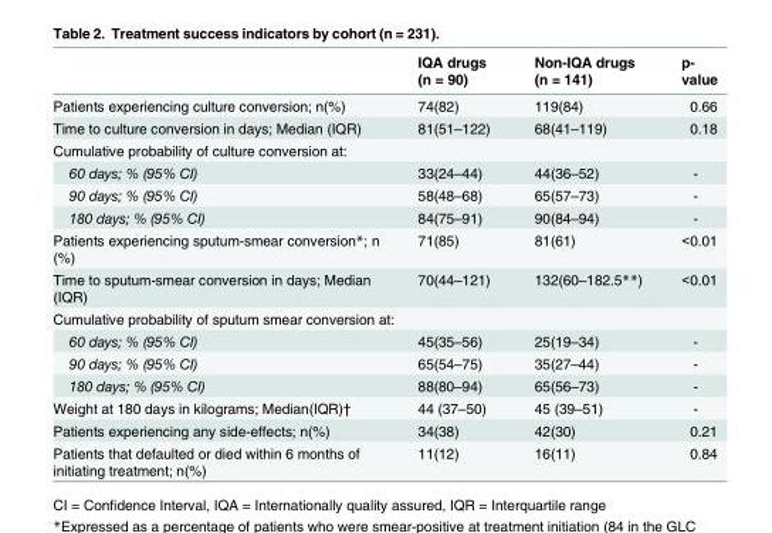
<table><thead><tr><td></td><td>IQA drugs (n = 90)</td><td>Non-IQA drugs (n = 141)</td><td>p- value</td></tr></thead><tbody><tr><td>Patients experiencing culture conversion; n(%)</td><td>74(82)</td><td>119(84)</td><td>0.66</td></tr><tr><td>Time to culture conversion in days; Median (IQR)</td><td>81(51–122)</td><td>68(41–119)</td><td>0.18</td></tr><tr><td colspan="4">Cumulative probability of culture conversion at:</td></tr><tr><td>60 days; % (95% CI)</td><td>33(24–44)</td><td>44(36–52)</td><td>-</td></tr><tr><td>90 days; % (95% CI)</td><td>58(48–68)</td><td>65(57–73)</td><td>-</td></tr><tr><td>180 days; % (95% CI)</td><td>84(75–91)</td><td>90(84–94)</td><td>-</td></tr><tr><td>Patients experiencing sputum-smear conversion*; n (%)</td><td>71(85)</td><td>81(61)</td><td>&lt;0.01</td></tr><tr><td>Time to sputum-smear conversion in days; Median (IQR)</td><td>70(44–121)</td><td>132(60–182.5**)</td><td>&lt;0.01</td></tr><tr><td colspan="4">Cumulative probability of sputum smear conversion at:</td></tr><tr><td>60 days; % (95% CI)</td><td>45(35–56)</td><td>25(19–34)</td><td>-</td></tr><tr><td>90 days; % (95% CI)</td><td>65(54–75)</td><td>35(27–44)</td><td>-</td></tr><tr><td>180 days; % (95% CI)</td><td>88(80–94)</td><td>65(56–73)</td><td>-</td></tr><tr><td>Weight at 180 days in kilograms; Median(IQR)†</td><td>44 (37–50)</td><td>45 (39–51)</td><td>-</td></tr><tr><td>Patients experiencing any side-effects; n(%)</td><td>34(38)</td><td>42(30)</td><td>0.21</td></tr><tr><td>Patients that defaulted or died within 6 months of initiating treatment; n(%)</td><td>11(12)</td><td>16(11)</td><td>0.84</td></tr></tbody></table>